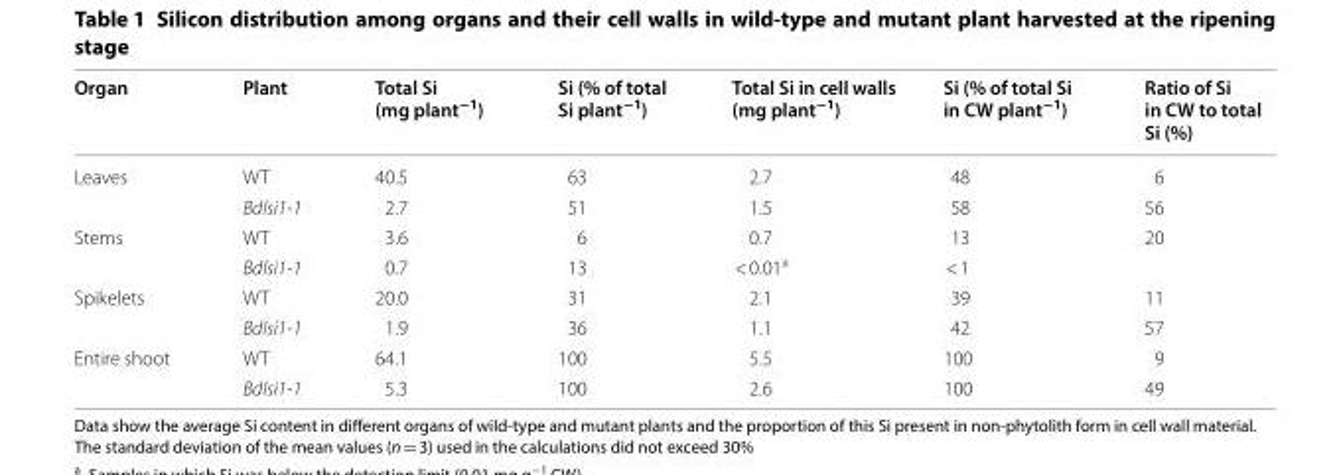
<table><thead><tr><td>Organ</td><td>Plant</td><td>Total Si (mg plant<sup>−1</sup>)</td><td>Si (% of total Si plant<sup>−1</sup>)</td><td>Total Si in cell walls (mg plant<sup>−1</sup>)</td><td>Si (% of total Si in CW plant<sup>−1</sup>)</td><td>Ratio of Si in CW to total Si (%)</td></tr></thead><tbody><tr><td rowspan="2">Leaves</td><td>WT</td><td>40.5</td><td>63</td><td>2.7</td><td>48</td><td>6</td></tr><tr><td>Bdlsi1-1</td><td>2.7</td><td>51</td><td>1.5</td><td>58</td><td>56</td></tr><tr><td rowspan="2">Stems</td><td>WT</td><td>3.6</td><td>6</td><td>0.7</td><td>13</td><td>20</td></tr><tr><td>Bdlsi1-1</td><td>0.7</td><td>13</td><td>&lt; 0.01<sup>a</sup></td><td>&lt; 1</td><td></td></tr><tr><td rowspan="2">Spikelets</td><td>WT</td><td>20.0</td><td>31</td><td>2.1</td><td>39</td><td>11</td></tr><tr><td>Bdlsi1-1</td><td>1.9</td><td>36</td><td>1.1</td><td>42</td><td>57</td></tr><tr><td rowspan="2">Entire shoot</td><td>WT</td><td>64.1</td><td>100</td><td>5.5</td><td>100</td><td>9</td></tr><tr><td>Bdlsi1-1</td><td>5.3</td><td>100</td><td>2.6</td><td>100</td><td>49</td></tr></tbody></table>